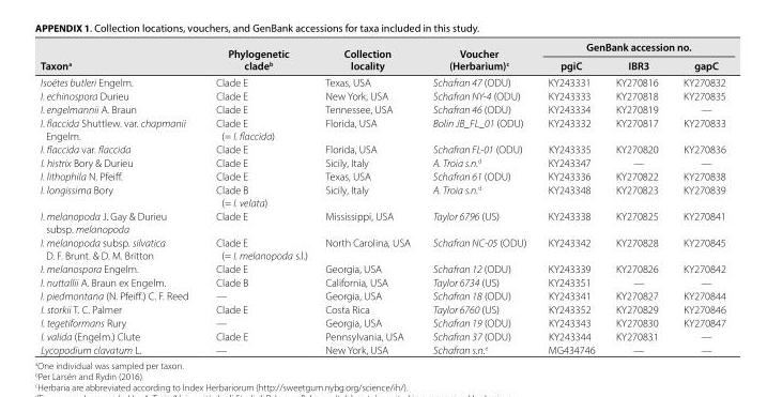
<table><thead><tr><td rowspan="2">Taxon<sup>a</sup></td><td rowspan="2">Phylogenetic clade<sup>b</sup></td><td rowspan="2">Collection locality</td><td rowspan="2">Voucher (Herbarium)<sup>c</sup></td><td colspan="3">GenBank accession no.</td></tr><tr><td>pgiC</td><td>IBR3</td><td>gapC</td></tr></thead><tbody><tr><td>Isoëtes butleri Engelm.</td><td>Clade E</td><td>Texas, USA</td><td>Schafran 47 (ODU)</td><td>KY243331</td><td>KY270816</td><td>KY270832</td></tr><tr><td>I. echinospora Durieu</td><td>Clade E</td><td>New York, USA</td><td>Schafran NY-4 (ODU)</td><td>KY243333</td><td>KY270818</td><td>KY270835</td></tr><tr><td>I. engelmannii A. Braun</td><td>Clade E</td><td>Tennessee, USA</td><td>Schafran 46 (ODU)</td><td>KY243334</td><td>KY270819</td><td>—</td></tr><tr><td>I. flaccida Shuttlew. var. chapmanii Engelm.</td><td>Clade E (= I. flaccida)</td><td>Florida, USA</td><td>Bolin JB_FL_01 (ODU)</td><td>KY243332</td><td>KY270817</td><td>KY270833</td></tr><tr><td>I. flaccida var. flaccida</td><td>Clade E</td><td>Florida, USA</td><td>Schafran FL-01 (ODU)</td><td>KY243335</td><td>KY270820</td><td>KY270836</td></tr><tr><td>I. histrix Bory &amp; Durieu</td><td>Clade E</td><td>Sicily, Italy</td><td>A. Troia s.n.<sup>d</sup></td><td>KY243347</td><td>—</td><td>—</td></tr><tr><td>I. lithophila N. Pfeiff.</td><td>Clade E</td><td>Texas, USA</td><td>Schafran 61 (ODU)</td><td>KY243336</td><td>KY270822</td><td>KY270838</td></tr><tr><td>I. longissima Bory</td><td>Clade B (= I. velata)</td><td>Sicily, Italy</td><td>A. Troia s.n.<sup>d</sup></td><td>KY243348</td><td>KY270823</td><td>KY270839</td></tr><tr><td>I. melanopoda J. Gay &amp; Durieu subsp. melanopoda</td><td>Clade E</td><td>Mississippi, USA</td><td>Taylor 6796 (US)</td><td>KY243338</td><td>KY270825</td><td>KY270841</td></tr><tr><td>I. melanopoda subsp. silvatica D. F. Brunt. &amp; D. M. Britton</td><td>Clade E (= I. melanopoda s.l.)</td><td>North Carolina, USA</td><td>Schafran NC-05 (ODU)</td><td>KY243342</td><td>KY270828</td><td>KY270845</td></tr><tr><td>I. melanospora Engelm.</td><td>Clade E</td><td>Georgia, USA</td><td>Schafran 12 (ODU)</td><td>KY243339</td><td>KY270826</td><td>KY270842</td></tr><tr><td>I. nuttallii A. Braun ex Engelm.</td><td>Clade B</td><td>California, USA</td><td>Taylor 6734 (US)</td><td>KY243351</td><td>—</td><td>—</td></tr><tr><td>I. piedmontana (N. Pfeiff.) C. F. Reed</td><td>—</td><td>Georgia, USA</td><td>Schafran 18 (ODU)</td><td>KY243341</td><td>KY270827</td><td>KY270844</td></tr><tr><td>I. storkii T. C. Palmer</td><td>Clade E</td><td>Costa Rica</td><td>Taylor 6760 (US)</td><td>KY243352</td><td>KY270829</td><td>KY270846</td></tr><tr><td>I. tegetiformans Rury</td><td>—</td><td>Georgia, USA</td><td>Schafran 19 (ODU)</td><td>KY243343</td><td>KY270830</td><td>KY270847</td></tr><tr><td>I. valida (Engelm.) Clute</td><td>Clade E</td><td>Pennsylvania, USA</td><td>Schafran 37 (ODU)</td><td>KY243344</td><td>KY270831</td><td>—</td></tr><tr><td>Lycopodium clavatum L.</td><td>—</td><td>New York, USA</td><td>Schafran s.n.<sup>e</sup></td><td>MG434746</td><td>—</td><td>—</td></tr></tbody></table>